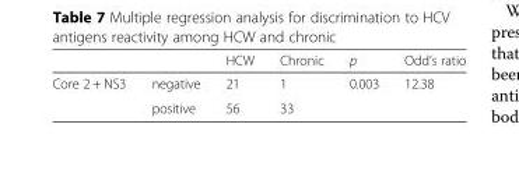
<table><thead><tr><td></td><td></td><td>HCW</td><td>Chronic</td><td>p</td><td>Odd’s ratio</td></tr></thead><tbody><tr><td rowspan="2">Core 2 + NS3</td><td>negative</td><td>21</td><td>1</td><td rowspan="2">0.003</td><td rowspan="2">12.38</td></tr><tr><td>positive</td><td>56</td><td>33</td></tr></tbody></table>